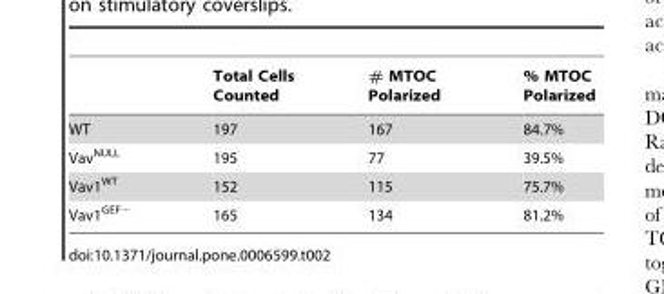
<table><thead><tr><td></td><td>Total Cells Counted</td><td># MTOC Polarized</td><td>% MTOC Polarized</td></tr></thead><tbody><tr><td>WT</td><td>197</td><td>167</td><td>84.7%</td></tr><tr><td>Vav<sup>NULL</sup></td><td>195</td><td>77</td><td>39.5%</td></tr><tr><td>Vav1<sup>WT</sup></td><td>152</td><td>115</td><td>75.7%</td></tr><tr><td>Vav1<sup>GEF−</sup></td><td>165</td><td>134</td><td>81.2%</td></tr></tbody></table>